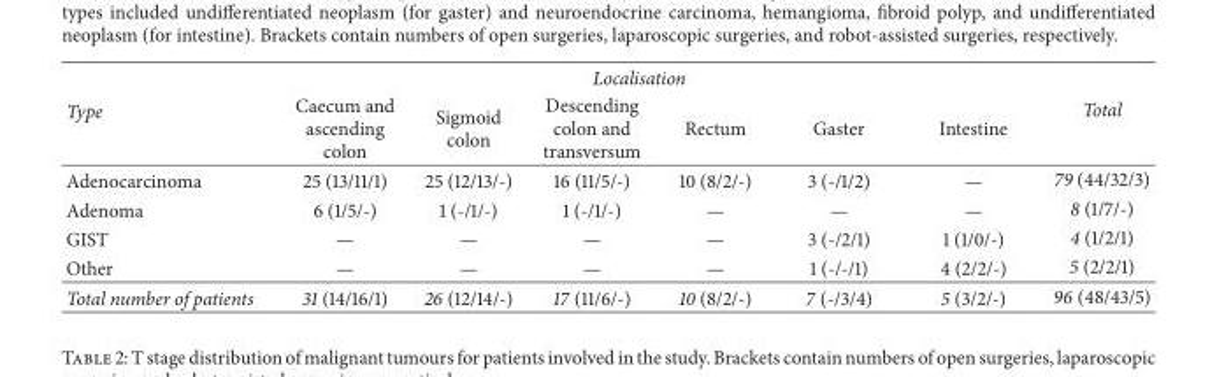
<table><thead><tr><td rowspan="2">Type</td><td colspan="6">Localisation</td><td rowspan="2">Total</td></tr><tr><td>Caecum and ascending colon</td><td>Sigmoid colon</td><td>Descending colon and transversum</td><td>Rectum</td><td>Gaster</td><td>Intestine</td></tr></thead><tbody><tr><td>Adenocarcinoma</td><td>25 (13/11/1)</td><td>25 (12/13/-)</td><td>16 (11/5/-)</td><td>10 (8/2/-)</td><td>3 (-/1/2)</td><td>—</td><td>79 (44/32/3)</td></tr><tr><td>Adenoma</td><td>6 (1/5/-)</td><td>1 (-/1/-)</td><td>1 (-/1/-)</td><td>—</td><td>—</td><td>—</td><td>8 (1/7/-)</td></tr><tr><td>GIST</td><td>—</td><td>—</td><td>—</td><td>—</td><td>3 (-/2/1)</td><td>1 (1/0/-)</td><td>4 (1/2/1)</td></tr><tr><td>Other</td><td>—</td><td>—</td><td>—</td><td>—</td><td>1 (-/-/1)</td><td>4 (2/2/-)</td><td>5 (2/2/1)</td></tr><tr><td>Total number of patients</td><td>31 (14/16/1)</td><td>26 (12/14/-)</td><td>17 (11/6/-)</td><td>10 (8/2/-)</td><td>7 (-/3/4)</td><td>5 (3/2/-)</td><td>96 (48/43/5)</td></tr></tbody></table>